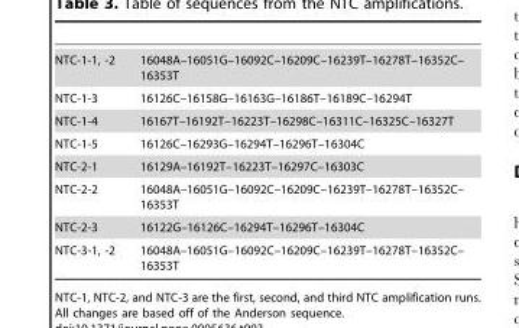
<table><tbody><tr><td>NTC-1-1, -2</td><td>16048A–16051G–16092C–16209C–16239T–16278T–16352C– 16353T</td></tr><tr><td>NTC-1-3</td><td>16126C–16158G–16163G–16186T–16189C–16294T</td></tr><tr><td>NTC-1-4</td><td>16167T–16192T–16223T–16298C–16311C–16325C–16327T</td></tr><tr><td>NTC-1-5</td><td>16126C–16293G–16294T–16296T–16304C</td></tr><tr><td>NTC-2-1</td><td>16129A–16192T–16223T–16297C–16303C</td></tr><tr><td>NTC-2-2</td><td>16048A–16051G–16092C–16209C–16239T–16278T–16352C– 16353T</td></tr><tr><td>NTC-2-3</td><td>16122G–16126C–16294T–16296T–16304C</td></tr><tr><td>NTC-3-1, -2</td><td>16048A–16051G–16092C–16209C–16239T–16278T–16352C– 16353T</td></tr></tbody></table>